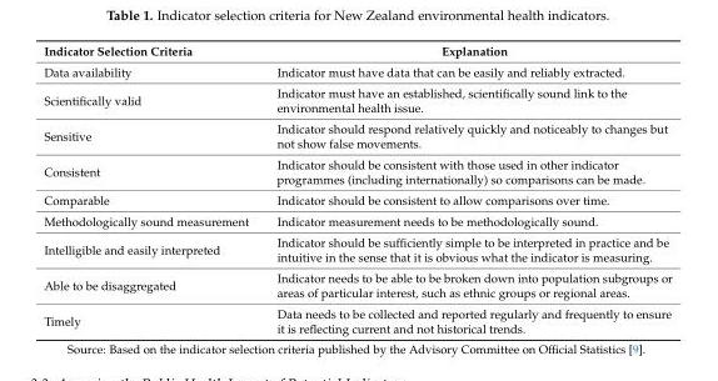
<table><thead><tr><td>Indicator Selection Criteria</td><td>Explanation</td></tr></thead><tbody><tr><td>Data availability</td><td>Indicator must have data that can be easily and reliably extracted.</td></tr><tr><td>Scientifically valid</td><td>Indicator must have an established, scientifically sound link to the environmental health issue.</td></tr><tr><td>Sensitive</td><td>Indicator should respond relatively quickly and noticeably to changes but not show false movements.</td></tr><tr><td>Consistent</td><td>Indicator should be consistent with those used in other indicator programmes (including internationally) so comparisons can be made.</td></tr><tr><td>Comparable</td><td>Indicator should be consistent to allow comparisons over time.</td></tr><tr><td>Methodologically sound measurement</td><td>Indicator measurement needs to be methodologically sound.</td></tr><tr><td>Intelligible and easily interpreted</td><td>Indicator should be sufficiently simple to be interpreted in practice and be intuitive in the sense that it is obvious what the indicator is measuring.</td></tr><tr><td>Able to be disaggregated</td><td>Indicator needs to be able to be broken down into population subgroups or areas of particular interest, such as ethnic groups or regional areas.</td></tr><tr><td>Timely</td><td>Data needs to be collected and reported regularly and frequently to ensure it is reflecting current and not historical trends.</td></tr></tbody></table>